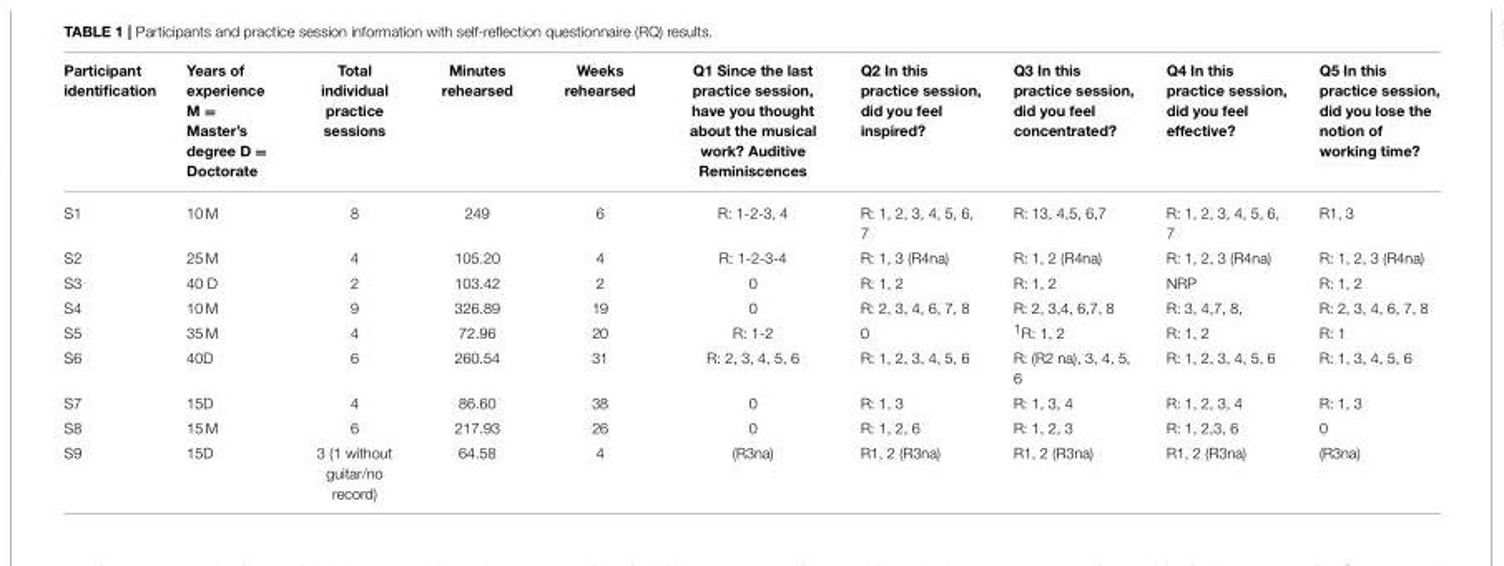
<table><thead><tr><td>Participant identification</td><td>Years of experience M = Master’s degree D = Doctorate</td><td>Total individual practice sessions</td><td>Minutes rehearsed</td><td>Weeks rehearsed</td><td>Q1 Since the last practice session, have you thought about the musical work? Auditive Reminiscences</td><td>Q2 In this practice session, did you feel inspired?</td><td>Q3 In this practice session, did you feel concentrated?</td><td>Q4 In this practice session, did you feel effective?</td><td>Q5 In this practice session, did you lose the notion of working time?</td></tr></thead><tbody><tr><td>S1</td><td>10 M</td><td>8</td><td>249</td><td>6</td><td>R: 1-2-3, 4</td><td>R: 1, 2, 3, 4, 5, 6, 7</td><td>R: 13, 4,5, 6,7</td><td>R: 1, 2, 3, 4, 5, 6, 7</td><td>R1, 3</td></tr><tr><td>S2</td><td>25 M</td><td>4</td><td>105.20</td><td>4</td><td>R: 1-2-3-4</td><td>R: 1, 3 (R4na)</td><td>R: 1, 2 (R4na)</td><td>R: 1, 2, 3 (R4na)</td><td>R: 1, 2, 3 (R4na)</td></tr><tr><td>S3</td><td>40 D</td><td>2</td><td>103.42</td><td>2</td><td>0</td><td>R: 1, 2</td><td>R: 1, 2</td><td>NRP</td><td>R: 1, 2</td></tr><tr><td>S4</td><td>10 M</td><td>9</td><td>326.89</td><td>19</td><td>0</td><td>R: 2, 3, 4, 6, 7, 8</td><td>R: 2, 3,4, 6,7, 8</td><td>R: 3, 4,7, 8,</td><td>R: 2, 3, 4, 6, 7, 8</td></tr><tr><td>S5</td><td>35 M</td><td>4</td><td>72.96</td><td>20</td><td>R: 1-2</td><td>0</td><td><sup>1</sup>R: 1, 2</td><td>R: 1, 2</td><td>R: 1</td></tr><tr><td>S6</td><td>40D</td><td>6</td><td>260.54</td><td>31</td><td>R: 2, 3, 4, 5, 6</td><td>R: 1, 2, 3, 4, 5, 6</td><td>R: (R2 na), 3, 4, 5, 6</td><td>R: 1, 2, 3, 4, 5, 6</td><td>R: 1, 3, 4, 5, 6</td></tr><tr><td>S7</td><td>15D</td><td>4</td><td>86.60</td><td>38</td><td>0</td><td>R: 1, 3</td><td>R: 1, 3, 4</td><td>R: 1, 2, 3, 4</td><td>R: 1, 3</td></tr><tr><td>S8</td><td>15 M</td><td>6</td><td>217.93</td><td>26</td><td>0</td><td>R: 1, 2, 6</td><td>R: 1, 2, 3</td><td>R: 1, 2,3, 6</td><td>0</td></tr><tr><td>S9</td><td>15D</td><td>3 (1 without guitar/no record)</td><td>64.58</td><td>4</td><td>(R3na)</td><td>R1, 2 (R3na)</td><td>R1, 2 (R3na)</td><td>R1, 2 (R3na)</td><td>(R3na)</td></tr></tbody></table>